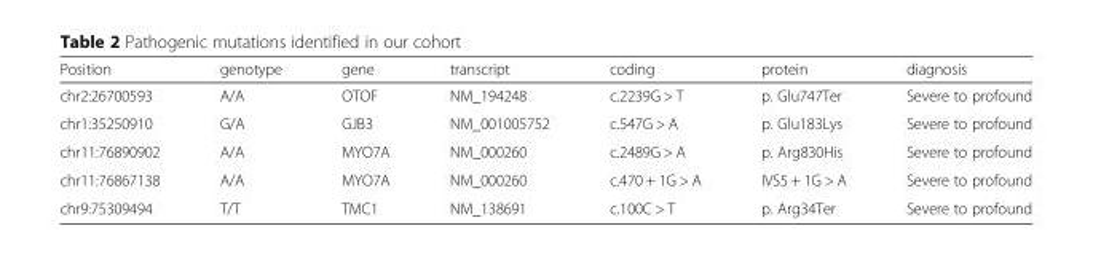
<table><thead><tr><td>Position</td><td>genotype</td><td>gene</td><td>transcript</td><td>coding</td><td>protein</td><td>diagnosis</td></tr></thead><tbody><tr><td>chr2:26700593</td><td>A/A</td><td>OTOF</td><td>NM_194248</td><td>c.2239G &gt; T</td><td>p. Glu747Ter</td><td>Severe to profound</td></tr><tr><td>chr1:35250910</td><td>G/A</td><td>GJB3</td><td>NM_001005752</td><td>c.547G &gt; A</td><td>p. Glu183Lys</td><td>Severe to profound</td></tr><tr><td>chr11:76890902</td><td>A/A</td><td>MYO7A</td><td>NM_000260</td><td>c.2489G &gt; A</td><td>p. Arg830His</td><td>Severe to profound</td></tr><tr><td>chr11:76867138</td><td>A/A</td><td>MYO7A</td><td>NM_000260</td><td>c.470 + 1G &gt; A</td><td>IVS5 + 1G &gt; A</td><td>Severe to profound</td></tr><tr><td>chr9:75309494</td><td>T/T</td><td>TMC1</td><td>NM_138691</td><td>c.100C &gt; T</td><td>p. Arg34Ter</td><td>Severe to profound</td></tr></tbody></table>